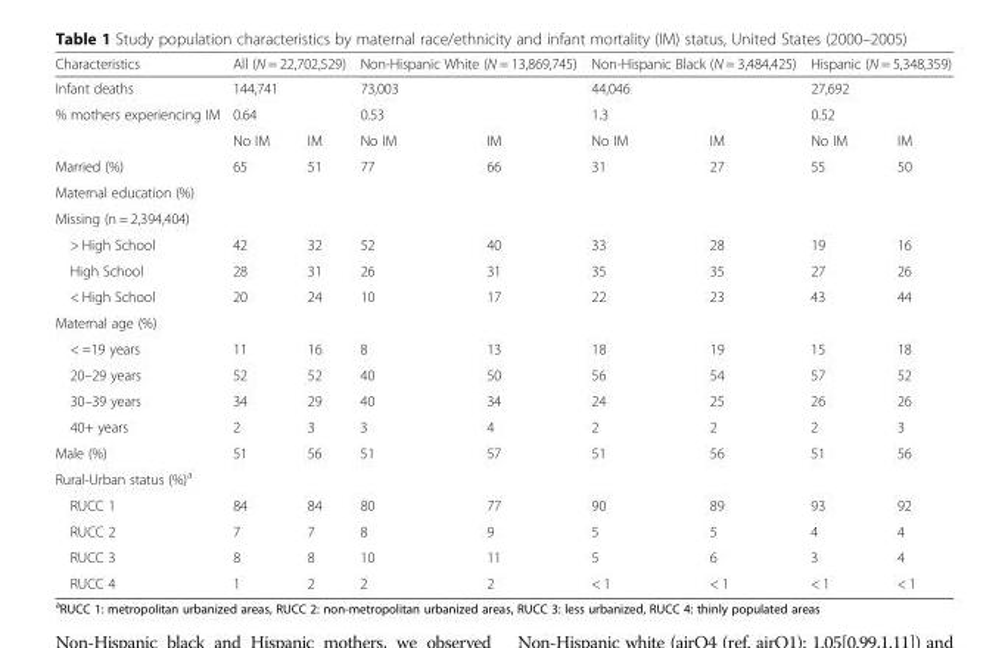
<table><thead><tr><td rowspan="4">Characteristics Infant deaths % mothers experiencing IM</td><td rowspan="3" colspan="2">All (N = 22,702,529) 144,741 0.64</td><td rowspan="3" colspan="2">Non-Hispanic White (N = 13,869,745) 73,003 0.53</td><td rowspan="3" colspan="2">Non-Hispanic Black (N = 3,484,425) 44,046 1.3</td><td rowspan="3" colspan="2">Hispanic (N = 5,348,359) 27,692 0.52</td></tr><tr></tr><tr></tr><tr><td>No IM</td><td>IM</td><td>No IM</td><td>IM</td><td>No IM</td><td>IM</td><td>No IM</td><td>IM</td></tr></thead><tbody><tr><td>Married (%)</td><td>65</td><td>51</td><td>77</td><td>66</td><td>31</td><td>27</td><td>55</td><td>50</td></tr><tr><td colspan="9">Maternal education (%)</td></tr><tr><td colspan="9">Missing (n = 2,394,404)</td></tr><tr><td>&gt; High School</td><td>42</td><td>32</td><td>52</td><td>40</td><td>33</td><td>28</td><td>19</td><td>16</td></tr><tr><td>High School</td><td>28</td><td>31</td><td>26</td><td>31</td><td>35</td><td>35</td><td>27</td><td>26</td></tr><tr><td>&lt; High School</td><td>20</td><td>24</td><td>10</td><td>17</td><td>22</td><td>23</td><td>43</td><td>44</td></tr><tr><td colspan="9">Maternal age (%)</td></tr><tr><td>&lt; =19 years</td><td>11</td><td>16</td><td>8</td><td>13</td><td>18</td><td>19</td><td>15</td><td>18</td></tr><tr><td>20–29 years</td><td>52</td><td>52</td><td>40</td><td>50</td><td>56</td><td>54</td><td>57</td><td>52</td></tr><tr><td>30–39 years</td><td>34</td><td>29</td><td>40</td><td>34</td><td>24</td><td>25</td><td>26</td><td>26</td></tr><tr><td>40+ years</td><td>2</td><td>3</td><td>3</td><td>4</td><td>2</td><td>2</td><td>2</td><td>3</td></tr><tr><td>Male (%)</td><td>51</td><td>56</td><td>51</td><td>57</td><td>51</td><td>56</td><td>51</td><td>56</td></tr><tr><td colspan="9">Rural-Urban status (%)<sup>a</sup></td></tr><tr><td>RUCC 1</td><td>84</td><td>84</td><td>80</td><td>77</td><td>90</td><td>89</td><td>93</td><td>92</td></tr><tr><td>RUCC 2</td><td>7</td><td>7</td><td>8</td><td>9</td><td>5</td><td>5</td><td>4</td><td>4</td></tr><tr><td>RUCC 3</td><td>8</td><td>8</td><td>10</td><td>11</td><td>5</td><td>6</td><td>3</td><td>4</td></tr><tr><td>RUCC 4</td><td>1</td><td>2</td><td>2</td><td>2</td><td>&lt; 1</td><td>&lt; 1</td><td>&lt; 1</td><td>&lt; 1</td></tr></tbody></table>